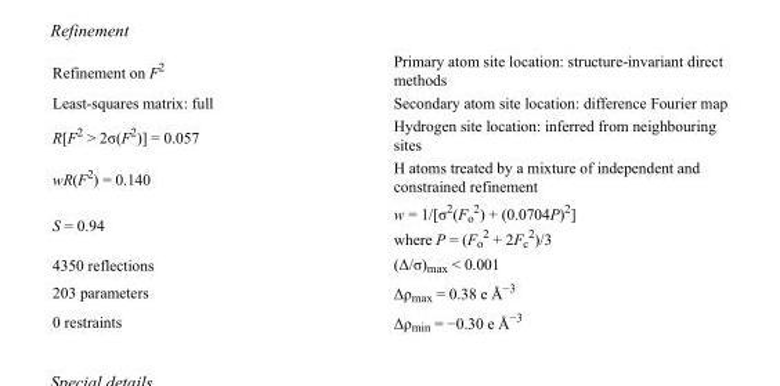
<table><tbody><tr><td>Refinement on F<sup>2</sup></td><td>Primary atom site location: structure-invariant direct methods</td></tr><tr><td>Least-squares matrix: full</td><td>Secondary atom site location: difference Fourier map</td></tr><tr><td>R[F<sup>2</sup> &gt; 2σ(F<sup>2</sup>)] = 0.057</td><td>Hydrogen site location: inferred from neighbouring sites</td></tr><tr><td>wR(F<sup>2</sup>) = 0.140</td><td>H atoms treated by a mixture of independent and constrained refinement</td></tr><tr><td>S = 0.94</td><td>w = 1/[σ<sup>2</sup>(F<sub>o</sub> <sup>2</sup>) + (0.0704P)<sup>2</sup>] where P = (F<sub>o</sub> <sup>2</sup> + 2F<sub>c</sub> <sup>2</sup>)/3</td></tr><tr><td>4350 reflections</td><td>(Δ/σ)<sub>max</sub> &lt; 0.001</td></tr><tr><td>203 parameters</td><td>Δρ<sub>max</sub> = 0.38 e Å<sup>−3</sup></td></tr><tr><td>0 restraints</td><td>Δρ<sub>min</sub> = −0.30 e Å<sup>−3</sup></td></tr></tbody></table>